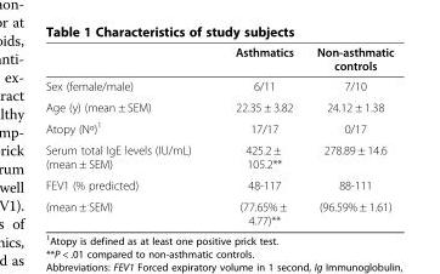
<table><thead><tr><td></td><td>Asthmatics</td><td>Non-asthmatic controls</td></tr></thead><tbody><tr><td>Sex (female/male)</td><td>6/11</td><td>7/10</td></tr><tr><td>Age (y) (mean ± SEM)</td><td>22.35 ± 3.82</td><td>24.12 ± 1.38</td></tr><tr><td>Atopy (Nº)<sup>1</sup></td><td>17/17</td><td>0/17</td></tr><tr><td>Serum total IgE levels (IU/mL) (mean ± SEM)</td><td>425.2 ± 105.2**</td><td>278.89 ± 14.6</td></tr><tr><td>FEV1 (% predicted)</td><td>48-117</td><td>88-111</td></tr><tr><td>(mean ± SEM)</td><td>(77.65% ± 4.77)**</td><td>(96.59% ± 1.61)</td></tr></tbody></table>